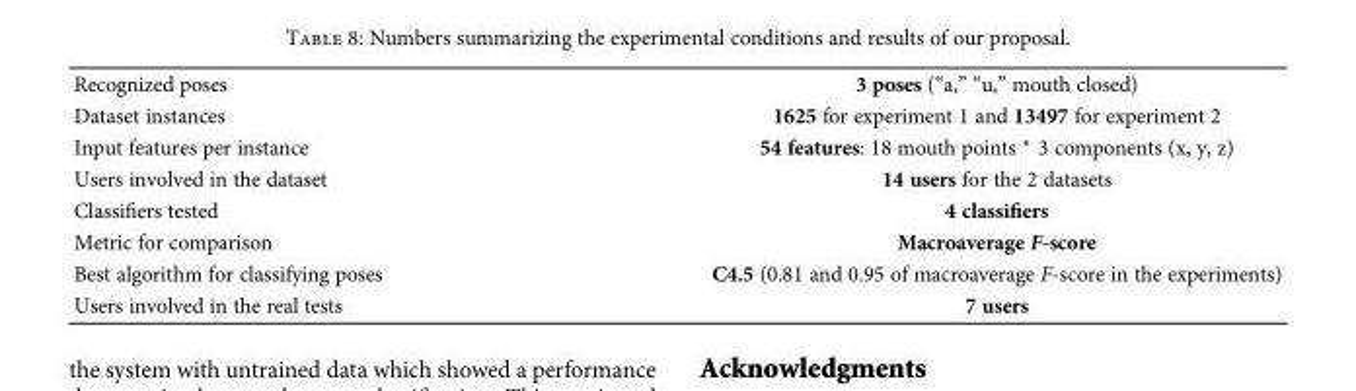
<table><tbody><tr><td>Recognized poses</td><td>3 poses (“a,” “u,” mouth closed)</td></tr><tr><td>Dataset instances</td><td>1625 for experiment 1 and 13497 for experiment 2</td></tr><tr><td>Input features per instance</td><td>54 features: 18 mouth points ∗ 3 components (x, y, z)</td></tr><tr><td>Users involved in the dataset</td><td>14 users for the 2 datasets</td></tr><tr><td>Classifiers tested</td><td>4 classifiers</td></tr><tr><td>Metric for comparison</td><td>Macroaverage F-score</td></tr><tr><td>Best algorithm for classifying poses</td><td>C4.5 (0.81 and 0.95 of macroaverage F-score in the experiments)</td></tr><tr><td>Users involved in the real tests</td><td>7 users</td></tr></tbody></table>